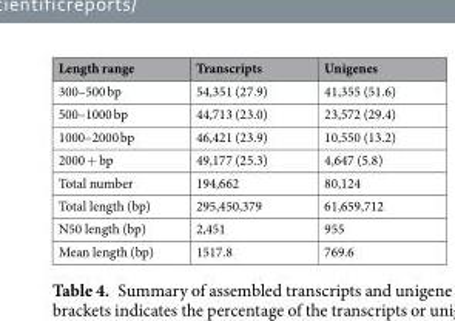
<table><thead><tr><td>Length range</td><td>Transcripts</td><td>Unigenes</td></tr></thead><tbody><tr><td>300–500 bp</td><td>54,351 (27.9)</td><td>41,355 (51.6)</td></tr><tr><td>500–1000 bp</td><td>44,713 (23.0)</td><td>23,572 (29.4)</td></tr><tr><td>1000–2000 bp</td><td>46,421 (23.9)</td><td>10,550 (13.2)</td></tr><tr><td>2000 + bp</td><td>49,177 (25.3)</td><td>4,647 (5.8)</td></tr><tr><td>Total number</td><td>194,662</td><td>80,124</td></tr><tr><td>Total length (bp)</td><td>295,450,379</td><td>61,659,712</td></tr><tr><td>N50 length (bp)</td><td>2,451</td><td>955</td></tr><tr><td>Mean length (bp)</td><td>1517.8</td><td>769.6</td></tr></tbody></table>